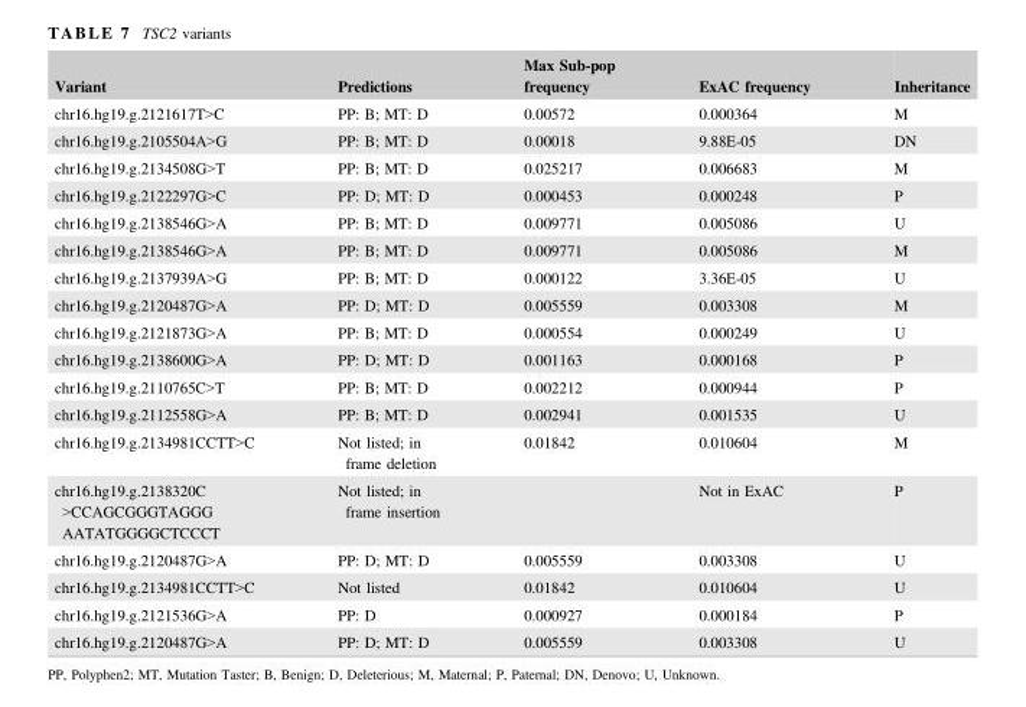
<table><thead><tr><td>Variant</td><td>Predictions</td><td>Max Sub-pop frequency</td><td>ExAC frequency</td><td>Inheritance</td></tr></thead><tbody><tr><td>chr16.hg19.g.2121617T&gt;C</td><td>PP: B; MT: D</td><td>0.00572</td><td>0.000364</td><td>M</td></tr><tr><td>chr16.hg19.g.2105504A&gt;G</td><td>PP: B; MT: D</td><td>0.00018</td><td>9.88E-05</td><td>DN</td></tr><tr><td>chr16.hg19.g.2134508G&gt;T</td><td>PP: B; MT: D</td><td>0.025217</td><td>0.006683</td><td>M</td></tr><tr><td>chr16.hg19.g.2122297G&gt;C</td><td>PP: D; MT: D</td><td>0.000453</td><td>0.000248</td><td>P</td></tr><tr><td>chr16.hg19.g.2138546G&gt;A</td><td>PP: B; MT: D</td><td>0.009771</td><td>0.005086</td><td>U</td></tr><tr><td>chr16.hg19.g.2138546G&gt;A</td><td>PP: B; MT: D</td><td>0.009771</td><td>0.005086</td><td>M</td></tr><tr><td>chr16.hg19.g.2137939A&gt;G</td><td>PP: B; MT: D</td><td>0.000122</td><td>3.36E-05</td><td>U</td></tr><tr><td>chr16.hg19.g.2120487G&gt;A</td><td>PP: D; MT: D</td><td>0.005559</td><td>0.003308</td><td>M</td></tr><tr><td>chr16.hg19.g.2121873G&gt;A</td><td>PP: B; MT: D</td><td>0.000554</td><td>0.000249</td><td>U</td></tr><tr><td>chr16.hg19.g.2138600G&gt;A</td><td>PP: D; MT: D</td><td>0.001163</td><td>0.000168</td><td>P</td></tr><tr><td>chr16.hg19.g.2110765C&gt;T</td><td>PP: B; MT: D</td><td>0.002212</td><td>0.000944</td><td>P</td></tr><tr><td>chr16.hg19.g.2112558G&gt;A</td><td>PP: B; MT: D</td><td>0.002941</td><td>0.001535</td><td>U</td></tr><tr><td>chr16.hg19.g.2134981CCTT&gt;C</td><td>Not listed; in frame deletion</td><td>0.01842</td><td>0.010604</td><td>M</td></tr><tr><td>chr16.hg19.g.2138320C &gt;CCAGCGGGTAGGG AATATGGGGCTCCCT</td><td>Not listed; in frame insertion</td><td></td><td>Not in ExAC</td><td>P</td></tr><tr><td>chr16.hg19.g.2120487G&gt;A</td><td>PP: D; MT: D</td><td>0.005559</td><td>0.003308</td><td>U</td></tr><tr><td>chr16.hg19.g.2134981CCTT&gt;C</td><td>Not listed</td><td>0.01842</td><td>0.010604</td><td>U</td></tr><tr><td>chr16.hg19.g.2121536G&gt;A</td><td>PP: D</td><td>0.000927</td><td>0.000184</td><td>P</td></tr><tr><td>chr16.hg19.g.2120487G&gt;A</td><td>PP: D; MT: D</td><td>0.005559</td><td>0.003308</td><td>U</td></tr></tbody></table>